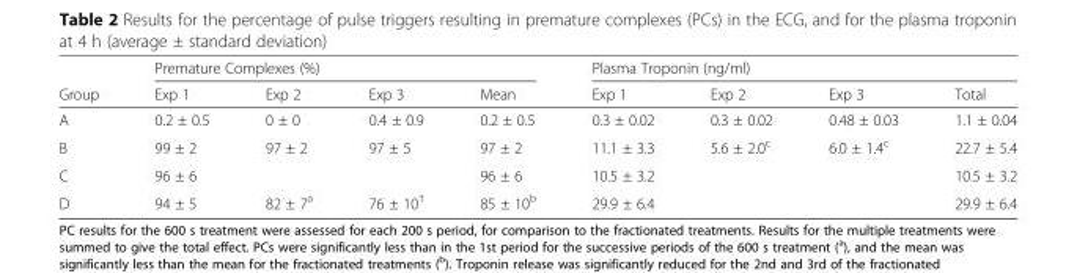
<table><thead><tr><td rowspan="2">Group</td><td colspan="4">Premature Complexes (%)</td><td colspan="4">Plasma Troponin (ng/ml)</td></tr><tr><td>Exp 1</td><td>Exp 2</td><td>Exp 3</td><td>Mean</td><td>Exp 1</td><td>Exp 2</td><td>Exp 3</td><td>Total</td></tr></thead><tbody><tr><td>A</td><td>0.2 ± 0.5</td><td>0 ± 0</td><td>0.4 ± 0.9</td><td>0.2 ± 0.5</td><td>0.3 ± 0.02</td><td>0.3 ± 0.02</td><td>0.48 ± 0.03</td><td>1.1 ± 0.04</td></tr><tr><td>B</td><td>99 ± 2</td><td>97 ± 2</td><td>97 ± 5</td><td>97 ± 2</td><td>11.1 ± 3.3</td><td>5.6 ± 2.0<sup>c</sup></td><td>6.0 ± 1.4<sup>c</sup></td><td>22.7 ± 5.4</td></tr><tr><td>C</td><td>96 ± 6</td><td></td><td></td><td>96 ± 6</td><td>10.5 ± 3.2</td><td></td><td></td><td>10.5 ± 3.2</td></tr><tr><td>D</td><td>94 ± 5</td><td>82 ± 7<sup>a</sup></td><td>76 ± 10<sup>†</sup></td><td>85 ± 10<sup>b</sup></td><td>29.9 ± 6.4</td><td></td><td></td><td>29.9 ± 6.4</td></tr></tbody></table>